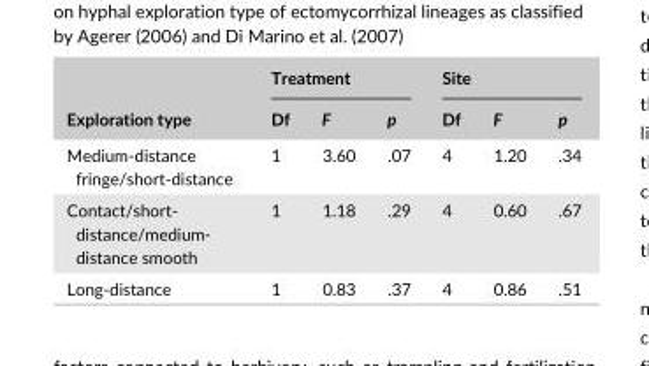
<table><thead><tr><td rowspan="2">Exploration type</td><td colspan="3">Treatment</td><td colspan="3">Site</td></tr><tr><td>Df</td><td>F</td><td>p</td><td>Df</td><td>F</td><td>p</td></tr></thead><tbody><tr><td>Medium- distance fringe/short- distance</td><td>1</td><td>3.60</td><td>.07</td><td>4</td><td>1.20</td><td>.34</td></tr><tr><td>Contact/short- distance/medium- distance smooth</td><td>1</td><td>1.18</td><td>.29</td><td>4</td><td>0.60</td><td>.67</td></tr><tr><td>Long- distance</td><td>1</td><td>0.83</td><td>.37</td><td>4</td><td>0.86</td><td>.51</td></tr></tbody></table>